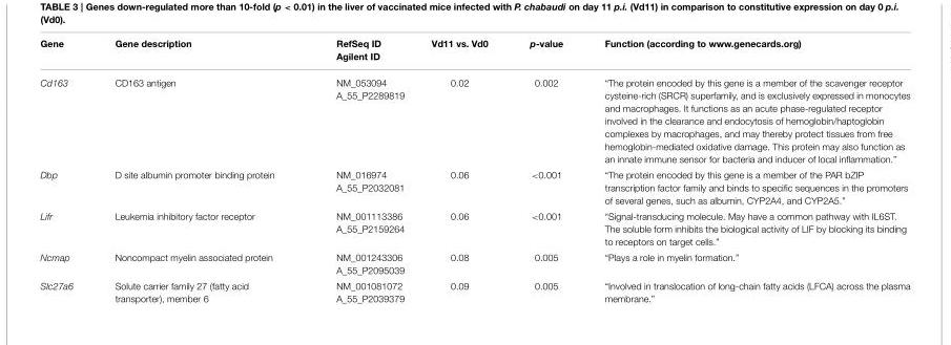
<table><thead><tr><td>Gene</td><td>Gene description</td><td>RefSeq ID Agilent ID</td><td>Vd11 vs. Vd0</td><td>p-value</td><td>Function (according to www.genecards.org)</td></tr></thead><tbody><tr><td>Cd163</td><td>CD163 antigen</td><td>NM_053094 A_55_P2289819</td><td>0.02</td><td>0.002</td><td>“The protein encoded by this gene is a member of the scavenger receptor cysteine-rich (SRCR) superfamily, and is exclusively expressed in monocytes and macrophages. It functions as an acute phase-regulated receptor involved in the clearance and endocytosis of hemoglobin/haptoglobin complexes by macrophages, and may thereby protect tissues from free hemoglobin-mediated oxidative damage. This protein may also function as an innate immune sensor for bacteria and inducer of local inflammation.”</td></tr><tr><td>Dbp</td><td>D site albumin promoter binding protein</td><td>NM_016974 A_55_P2032081</td><td>0.06</td><td>&lt;0.001</td><td>“The protein encoded by this gene is a member of the PAR bZIP transcription factor family and binds to specific sequences in the promoters of several genes, such as albumin, CYP2A4, and CYP2A5.”</td></tr><tr><td>Lifr</td><td>Leukemia inhibitory factor receptor</td><td>NM_001113386 A_55_P2159264</td><td>0.06</td><td>&lt;0.001</td><td>“Signal-transducing molecule. May have a common pathway with IL6ST. The soluble form inhibits the biological activity of LIF by blocking its binding to receptors on target cells.”</td></tr><tr><td>Ncmap</td><td>Noncompact myelin associated protein</td><td>NM_001243306 A_55_P2095039</td><td>0.08</td><td>0.005</td><td>“Plays a role in myelin formation.”</td></tr><tr><td>Slc27a6</td><td>Solute carrier family 27 (fatty acid transporter), member 6</td><td>NM_001081072 A_55_P2039379</td><td>0.09</td><td>0.005</td><td>“Involved in translocation of long-chain fatty acids (LFCA) across the plasma membrane.”</td></tr></tbody></table>